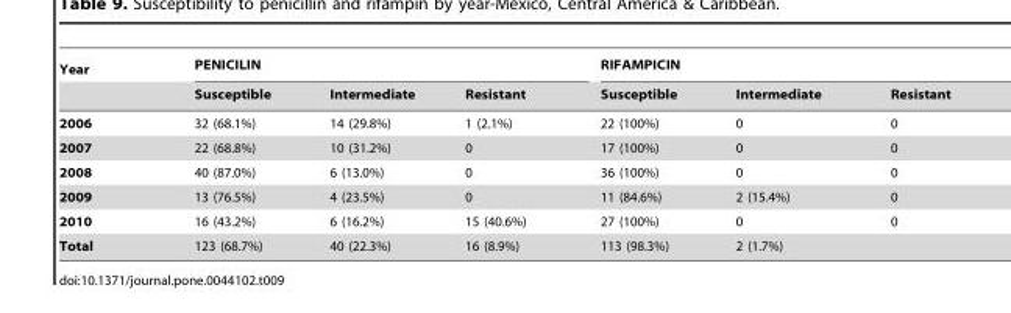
<table><thead><tr><td rowspan="2">Year</td><td colspan="3">PENICILIN</td><td colspan="3">RIFAMPICIN</td></tr><tr><td>Susceptible</td><td>Intermediate</td><td>Resistant</td><td>Susceptible</td><td>Intermediate</td><td>Resistant</td></tr></thead><tbody><tr><td>2006</td><td>32 (68.1%)</td><td>14 (29.8%)</td><td>1 (2.1%)</td><td>22 (100%)</td><td>0</td><td>0</td></tr><tr><td>2007</td><td>22 (68.8%)</td><td>10 (31.2%)</td><td>0</td><td>17 (100%)</td><td>0</td><td>0</td></tr><tr><td>2008</td><td>40 (87.0%)</td><td>6 (13.0%)</td><td>0</td><td>36 (100%)</td><td>0</td><td>0</td></tr><tr><td>2009</td><td>13 (76.5%)</td><td>4 (23.5%)</td><td>0</td><td>11 (84.6%)</td><td>2 (15.4%)</td><td>0</td></tr><tr><td>2010</td><td>16 (43.2%)</td><td>6 (16.2%)</td><td>15 (40.6%)</td><td>27 (100%)</td><td>0</td><td>0</td></tr><tr><td>Total</td><td>123 (68.7%)</td><td>40 (22.3%)</td><td>16 (8.9%)</td><td>113 (98.3%)</td><td>2 (1.7%)</td><td></td></tr></tbody></table>